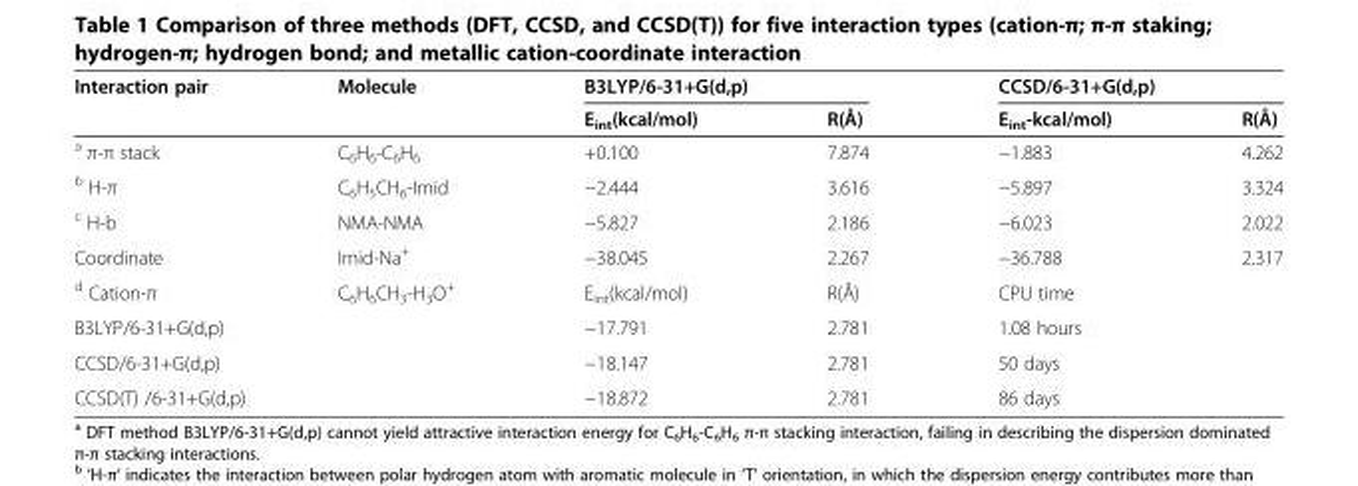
<table><thead><tr><td rowspan="2">Interaction pair</td><td rowspan="2">Molecule</td><td colspan="2">B3LYP/6-31+G(d,p)</td><td colspan="2">CCSD/6-31+G(d,p)</td></tr><tr><td>E<sub>int</sub>(kcal/mol)</td><td>R(Å)</td><td>E<sub>int</sub>-kcal/mol)</td><td>R(Å)</td></tr></thead><tbody><tr><td><sup>a</sup> π-π stack</td><td>C<sub>6</sub>H<sub>6</sub>-C<sub>6</sub>H<sub>6</sub></td><td>+0.100</td><td>7.874</td><td>−1.883</td><td>4.262</td></tr><tr><td><sup>b</sup> H-π</td><td>C<sub>6</sub>H<sub>5</sub>CH<sub>6</sub>-Imid</td><td>−2.444</td><td>3.616</td><td>−5.897</td><td>3.324</td></tr><tr><td><sup>c</sup> H-b</td><td>NMA-NMA</td><td>−5.827</td><td>2.186</td><td>−6.023</td><td>2.022</td></tr><tr><td>Coordinate</td><td>Imid-Na<sup>+</sup></td><td>−38.045</td><td>2.267</td><td>−36.788</td><td>2.317</td></tr><tr><td><sup>d</sup> Cation-π</td><td>C<sub>6</sub>H<sub>6</sub>CH<sub>3</sub>-H<sub>3</sub>O<sup>+</sup></td><td>E<sub>int</sub>(kcal/mol)</td><td>R(Å)</td><td>CPU time</td><td></td></tr><tr><td>B3LYP/6-31+G(d,p)</td><td></td><td>−17.791</td><td>2.781</td><td>1.08 hours</td><td></td></tr><tr><td>CCSD/6-31+G(d,p)</td><td></td><td>−18.147</td><td>2.781</td><td>50 days</td><td></td></tr><tr><td>CCSD(T) /6-31+G(d,p)</td><td></td><td>−18.872</td><td>2.781</td><td>86 days</td><td></td></tr></tbody></table>